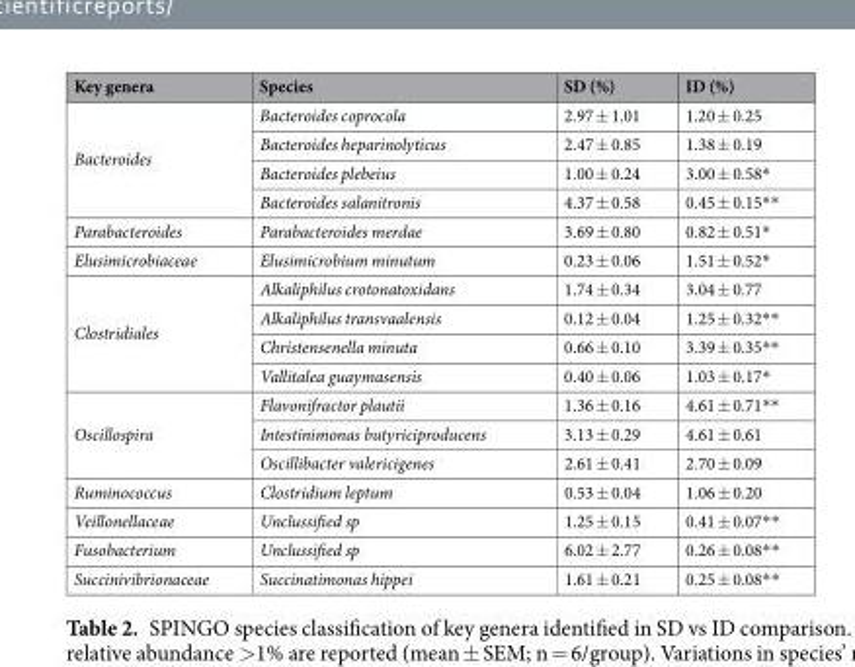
<table><thead><tr><td>Key genera</td><td>Species</td><td>SD (%)</td><td>ID (%)</td></tr></thead><tbody><tr><td rowspan="4">Bacteroides</td><td>Bacteroides coprocola</td><td>2.97 ± 1.01</td><td>1.20 ± 0.25</td></tr><tr><td>Bacteroides heparinolyticus</td><td>2.47 ± 0.85</td><td>1.38 ± 0.19</td></tr><tr><td>Bacteroides plebeius</td><td>1.00 ± 0.24</td><td>3.00 ± 0.58*</td></tr><tr><td>Bacteroides salanitronis</td><td>4.37 ± 0.58</td><td>0.45 ± 0.15**</td></tr><tr><td>Parabacteroides</td><td>Parabacteroides merdae</td><td>3.69 ± 0.80</td><td>0.82 ± 0.51*</td></tr><tr><td>Elusimicrobiaceae</td><td>Elusimicrobium minutum</td><td>0.23 ± 0.06</td><td>1.51 ± 0.52*</td></tr><tr><td rowspan="4">Clostridiales</td><td>Alkaliphilus crotonatoxidans</td><td>1.74 ± 0.34</td><td>3.04 ± 0.77</td></tr><tr><td>Alkaliphilus transvaalensis</td><td>0.12 ± 0.04</td><td>1.25 ± 0.32**</td></tr><tr><td>Christensenella minuta</td><td>0.66 ± 0.10</td><td>3.39 ± 0.35**</td></tr><tr><td>Vallitalea guaymasensis</td><td>0.40 ± 0.06</td><td>1.03 ± 0.17*</td></tr><tr><td rowspan="3">Oscillospira</td><td>Flavonifractor plautii</td><td>1.36 ± 0.16</td><td>4.61 ± 0.71**</td></tr><tr><td>Intestinimonas butyriciproducens</td><td>3.13 ± 0.29</td><td>4.61 ± 0.61</td></tr><tr><td>Oscillibacter valericigenes</td><td>2.61 ± 0.41</td><td>2.70 ± 0.09</td></tr><tr><td>Ruminococcus</td><td>Clostridium leptum</td><td>0.53 ± 0.04</td><td>1.06 ± 0.20</td></tr><tr><td>Veillonellaceae</td><td>Unclussified sp</td><td>1.25 ± 0.15</td><td>0.41 ± 0.07**</td></tr><tr><td>Fusobacterium</td><td>Unclussified sp</td><td>6.02 ± 2.77</td><td>0.26 ± 0.08**</td></tr><tr><td>Succinivibrionaceae</td><td>Succinatimonas hippei</td><td>1.61 ± 0.21</td><td>0.25 ± 0.08**</td></tr></tbody></table>